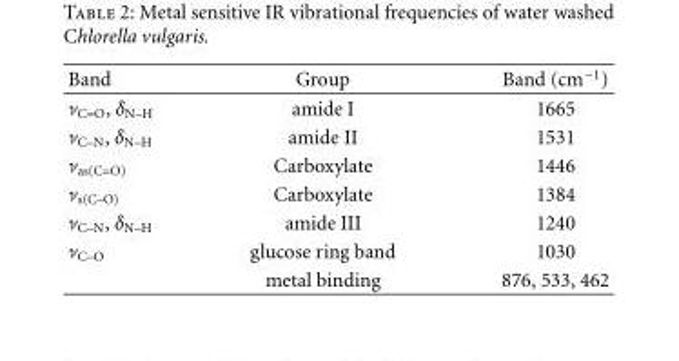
<table><thead><tr><td>Band</td><td>Group</td><td>Band (cm<sup>−1</sup>)</td></tr></thead><tbody><tr><td>ν<sub>C=O</sub>, δ<sub>N–H</sub></td><td>amide I</td><td>1665</td></tr><tr><td>ν<sub>C–N</sub>, δ<sub>N–H</sub></td><td>amide II</td><td>1531</td></tr><tr><td>ν<sub>as(C=O)</sub></td><td>Carboxylate</td><td>1446</td></tr><tr><td>ν<sub>s(C–O)</sub></td><td>Carboxylate</td><td>1384</td></tr><tr><td>ν<sub>C–N</sub>, δ<sub>N–H</sub></td><td>amide III</td><td>1240</td></tr><tr><td rowspan="2">ν<sub>C–O</sub></td><td>glucose ring band</td><td>1030</td></tr><tr><td>metal binding</td><td>876, 533, 462</td></tr></tbody></table>